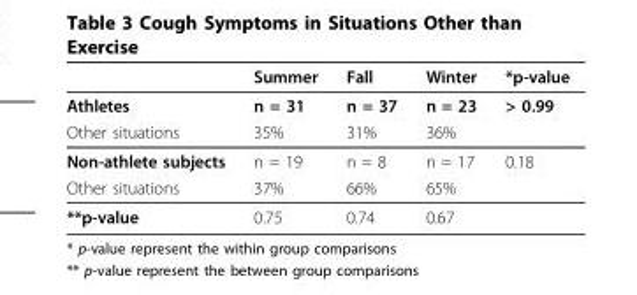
<table><thead><tr><td></td><td>Summer</td><td>Fall</td><td>Winter</td><td>*p-value</td></tr></thead><tbody><tr><td>Athletes</td><td>n = 31</td><td>n = 37</td><td>n = 23</td><td>&gt; 0.99</td></tr><tr><td>Other situations</td><td>35%</td><td>31%</td><td>36%</td><td></td></tr><tr><td>Non-athlete subjects</td><td>n = 19</td><td>n = 8</td><td>n = 17</td><td>0.18</td></tr><tr><td>Other situations</td><td>37%</td><td>66%</td><td>65%</td><td></td></tr><tr><td>**p-value</td><td>0.75</td><td>0.74</td><td>0.67</td><td></td></tr></tbody></table>